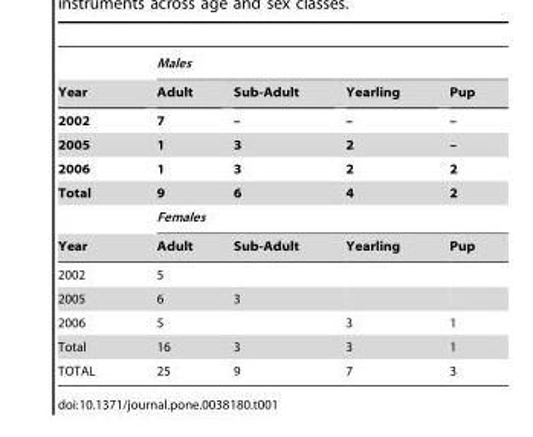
<table><thead><tr><td rowspan="8">Year 2002 2005 2006 Total Year</td><td colspan="4">Males</td></tr><tr><td rowspan="5">Adult 7 1 1 9</td><td rowspan="5">Sub-Adult – 3 3 6</td><td rowspan="5">Yearling – 2 2 4</td><td rowspan="5">Pup – – 2 2</td></tr><tr></tr><tr></tr><tr></tr><tr></tr><tr><td colspan="4">Females</td></tr><tr><td>Adult</td><td>Sub-Adult</td><td>Yearling</td><td>Pup</td></tr></thead><tbody><tr><td>2002</td><td>5</td><td></td><td></td><td></td></tr><tr><td>2005</td><td>6</td><td>3</td><td></td><td></td></tr><tr><td>2006</td><td>5</td><td></td><td>3</td><td>1</td></tr><tr><td>Total</td><td>16</td><td>3</td><td>3</td><td>1</td></tr><tr><td>TOTAL</td><td>25</td><td>9</td><td>7</td><td>3</td></tr></tbody></table>